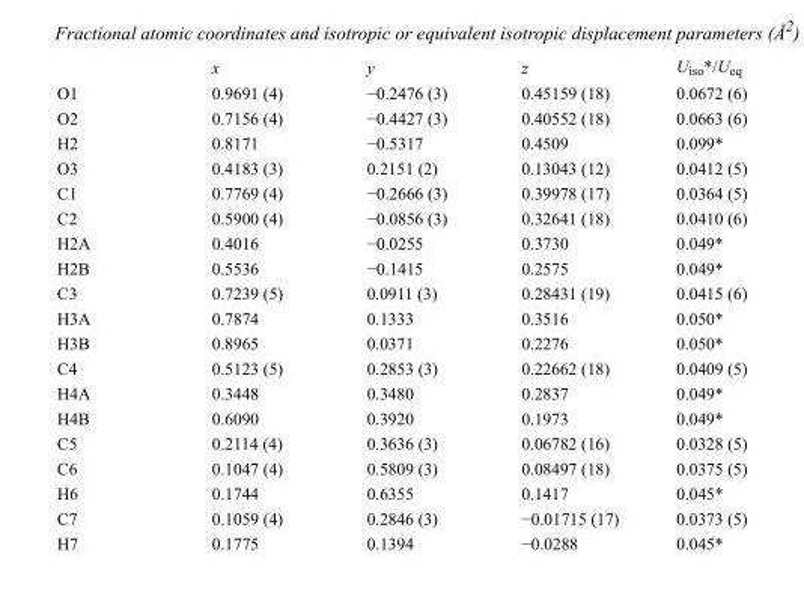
<table><thead><tr><td></td><td>x</td><td>y</td><td>z</td><td>U<sub>iso</sub>*/U<sub>eq</sub></td></tr></thead><tbody><tr><td>O1</td><td>0.9691 (4)</td><td>−0.2476 (3)</td><td>0.45159 (18)</td><td>0.0672 (6)</td></tr><tr><td>O2</td><td>0.7156 (4)</td><td>−0.4427 (3)</td><td>0.40552 (18)</td><td>0.0663 (6)</td></tr><tr><td>H2</td><td>0.8171</td><td>−0.5317</td><td>0.4509</td><td>0.099*</td></tr><tr><td>O3</td><td>0.4183 (3)</td><td>0.2151 (2)</td><td>0.13043 (12)</td><td>0.0412 (5)</td></tr><tr><td>C1</td><td>0.7769 (4)</td><td>−0.2666 (3)</td><td>0.39978 (17)</td><td>0.0364 (5)</td></tr><tr><td>C2</td><td>0.5900 (4)</td><td>−0.0856 (3)</td><td>0.32641 (18)</td><td>0.0410 (6)</td></tr><tr><td>H2A</td><td>0.4016</td><td>−0.0255</td><td>0.3730</td><td>0.049*</td></tr><tr><td>H2B</td><td>0.5536</td><td>−0.1415</td><td>0.2575</td><td>0.049*</td></tr><tr><td>C3</td><td>0.7239 (5)</td><td>0.0911 (3)</td><td>0.28431 (19)</td><td>0.0415 (6)</td></tr><tr><td>H3A</td><td>0.7874</td><td>0.1333</td><td>0.3516</td><td>0.050*</td></tr><tr><td>H3B</td><td>0.8965</td><td>0.0371</td><td>0.2276</td><td>0.050*</td></tr><tr><td>C4</td><td>0.5123 (5)</td><td>0.2853 (3)</td><td>0.22662 (18)</td><td>0.0409 (5)</td></tr><tr><td>H4A</td><td>0.3448</td><td>0.3480</td><td>0.2837</td><td>0.049*</td></tr><tr><td>H4B</td><td>0.6090</td><td>0.3920</td><td>0.1973</td><td>0.049*</td></tr><tr><td>C5</td><td>0.2114 (4)</td><td>0.3636 (3)</td><td>0.06782 (16)</td><td>0.0328 (5)</td></tr><tr><td>C6</td><td>0.1047 (4)</td><td>0.5809 (3)</td><td>0.08497 (18)</td><td>0.0375 (5)</td></tr><tr><td>H6</td><td>0.1744</td><td>0.6355</td><td>0.1417</td><td>0.045*</td></tr><tr><td>C7</td><td>0.1059 (4)</td><td>0.2846 (3)</td><td>−0.01715 (17)</td><td>0.0373 (5)</td></tr><tr><td>H7</td><td>0.1775</td><td>0.1394</td><td>−0.0288</td><td>0.045*</td></tr></tbody></table>